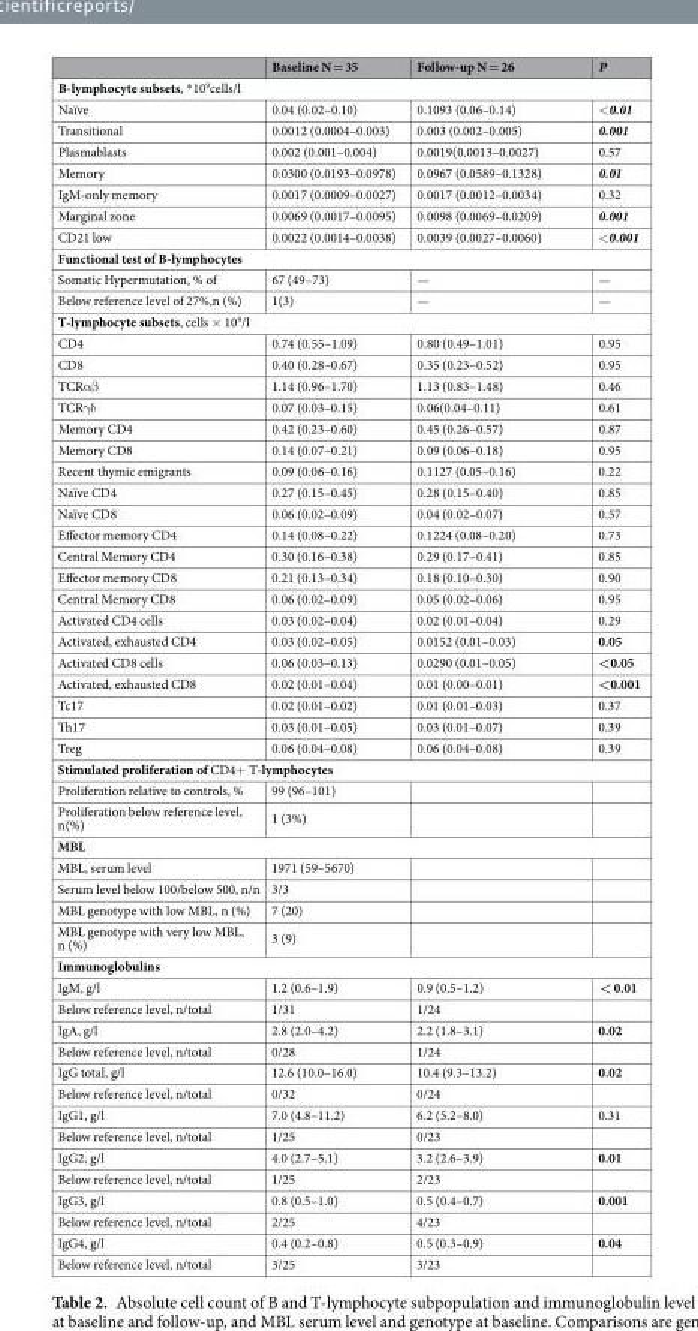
<table><thead><tr><td></td><td>Baseline N = 35</td><td>Follow-up N = 26</td><td>P</td></tr></thead><tbody><tr><td colspan="4">B-lymphocyte subsets, *10<sup>9</sup>cells/l</td></tr><tr><td>Naïve</td><td>0.04 (0.02–0.10)</td><td>0.1093 (0.06–0.14)</td><td>&lt;0.01</td></tr><tr><td>Transitional</td><td>0.0012 (0.0004–0.003)</td><td>0.003 (0.002–0.005)</td><td>0.001</td></tr><tr><td>Plasmablasts</td><td>0.002 (0.001–0.004)</td><td>0.0019(0.0013–0.0027)</td><td>0.57</td></tr><tr><td>Memory</td><td>0.0300 (0.0193–0.0978)</td><td>0.0967 (0.0589–0.1328)</td><td>0.01</td></tr><tr><td>IgM-only memory</td><td>0.0017 (0.0009–0.0027)</td><td>0.0017 (0.0012–0.0034)</td><td>0.32</td></tr><tr><td>Marginal zone</td><td>0.0069 (0.0017–0.0095)</td><td>0.0098 (0.0069–0.0209)</td><td>0.001</td></tr><tr><td>CD21 low</td><td>0.0022 (0.0014–0.0038)</td><td>0.0039 (0.0027–0.0060)</td><td>&lt;0.001</td></tr><tr><td colspan="4">Functional test of B-lymphocytes</td></tr><tr><td>Somatic Hypermutation, % of</td><td>67 (49–73)</td><td>—</td><td>—</td></tr><tr><td>Below reference level of 27%,n (%)</td><td>1(3)</td><td>—</td><td>—</td></tr><tr><td colspan="4">T-lymphocyte subsets, cells × 10<sup>9</sup>/l</td></tr><tr><td>CD4</td><td>0.74 (0.55–1.09)</td><td>0.80 (0.49–1.01)</td><td>0.95</td></tr><tr><td>CD8</td><td>0.40 (0.28–0.67)</td><td>0.35 (0.23–0.52)</td><td>0.95</td></tr><tr><td>TCRαβ</td><td>1.14 (0.96–1.70)</td><td>1.13 (0.83–1.48)</td><td>0.46</td></tr><tr><td>TCRγδ</td><td>0.07 (0.03–0.15)</td><td>0.06(0.04–0.11)</td><td>0.61</td></tr><tr><td>Memory CD4</td><td>0.42 (0.23–0.60)</td><td>0.45 (0.26–0.57)</td><td>0.87</td></tr><tr><td>Memory CD8</td><td>0.14 (0.07–0.21)</td><td>0.09 (0.06–0.18)</td><td>0.95</td></tr><tr><td>Recent thymic emigrants</td><td>0.09 (0.06–0.16)</td><td>0.1127 (0.05–0.16)</td><td>0.22</td></tr><tr><td>Naïve CD4</td><td>0.27 (0.15–0.45)</td><td>0.28 (0.15–0.40)</td><td>0.85</td></tr><tr><td>Naïve CD8</td><td>0.06 (0.02–0.09)</td><td>0.04 (0.02–0.07)</td><td>0.57</td></tr><tr><td>Effector memory CD4</td><td>0.14 (0.08–0.22)</td><td>0.1224 (0.08–0.20)</td><td>0.73</td></tr><tr><td>Central Memory CD4</td><td>0.30 (0.16–0.38)</td><td>0.29 (0.17–0.41)</td><td>0.85</td></tr><tr><td>Effector memory CD8</td><td>0.21 (0.13–0.34)</td><td>0.18 (0.10–0.30)</td><td>0.90</td></tr><tr><td>Central Memory CD8</td><td>0.06 (0.02–0.09)</td><td>0.05 (0.02–0.06)</td><td>0.95</td></tr><tr><td>Activated CD4 cells</td><td>0.03 (0.02–0.04)</td><td>0.02 (0.01–0.04)</td><td>0.29</td></tr><tr><td>Activated, exhausted CD4</td><td>0.03 (0.02–0.05)</td><td>0.0152 (0.01–0.03)</td><td>0.05</td></tr><tr><td>Activated CD8 cells</td><td>0.06 (0.03–0.13)</td><td>0.0290 (0.01–0.05)</td><td>&lt;0.05</td></tr><tr><td>Activated, exhausted CD8</td><td>0.02 (0.01–0.04)</td><td>0.01 (0.00–0.01)</td><td>&lt;0.001</td></tr><tr><td>Tc17</td><td>0.02 (0.01–0.02)</td><td>0.01 (0.01–0.03)</td><td>0.37</td></tr><tr><td>Th17</td><td>0.03 (0.01–0.05)</td><td>0.03 (0.01–0.07)</td><td>0.39</td></tr><tr><td>Treg</td><td>0.06 (0.04–0.08)</td><td>0.06 (0.04–0.08)</td><td>0.39</td></tr><tr><td colspan="4">Stimulated proliferation of CD4+ T-lymphocytes</td></tr><tr><td>Proliferation relative to controls, %</td><td>99 (96–101)</td><td></td><td></td></tr><tr><td>Proliferation below reference level, n(%)</td><td>1 (3%)</td><td></td><td></td></tr><tr><td colspan="4">MBL</td></tr><tr><td>MBL, serum level</td><td>1971 (59–5670)</td><td></td><td></td></tr><tr><td>Serum level below 100/below 500, n/n</td><td>3/3</td><td></td><td></td></tr><tr><td>MBL genotype with low MBL, n (%)</td><td>7 (20)</td><td></td><td></td></tr><tr><td>MBL genotype with very low MBL, n (%)</td><td>3 (9)</td><td></td><td></td></tr><tr><td colspan="4">Immunoglobulins</td></tr><tr><td>IgM, g/l</td><td>1.2 (0.6–1.9)</td><td>0.9 (0.5–1.2)</td><td>&lt; 0.01</td></tr><tr><td>Below reference level, n/total</td><td>1/31</td><td>1/24</td><td></td></tr><tr><td>IgA, g/l</td><td>2.8 (2.0–4.2)</td><td>2.2 (1.8–3.1)</td><td>0.02</td></tr><tr><td>Below reference level, n/total</td><td>0/28</td><td>1/24</td><td></td></tr><tr><td>IgG total, g/l</td><td>12.6 (10.0–16.0)</td><td>10.4 (9.3–13.2)</td><td>0.02</td></tr><tr><td>Below reference level, n/total</td><td>0/32</td><td>0/24</td><td></td></tr><tr><td>IgG1, g/l</td><td>7.0 (4.8–11.2)</td><td>6.2 (5.2–8.0)</td><td>0.31</td></tr><tr><td>Below reference level, n/total</td><td>1/25</td><td>0/23</td><td></td></tr><tr><td>IgG2, g/l</td><td>4.0 (2.7–5.1)</td><td>3.2 (2.6–3.9)</td><td>0.01</td></tr><tr><td>Below reference level, n/total</td><td>1/25</td><td>2/23</td><td></td></tr><tr><td>IgG3, g/l</td><td>0.8 (0.5–1.0)</td><td>0.5 (0.4–0.7)</td><td>0.001</td></tr><tr><td>Below reference level, n/total</td><td>2/25</td><td>4/23</td><td></td></tr><tr><td>IgG4, g/l</td><td>0.4 (0.2–0.8)</td><td>0.5 (0.3–0.9)</td><td>0.04</td></tr><tr><td>Below reference level, n/total</td><td>3/25</td><td>3/23</td><td></td></tr></tbody></table>